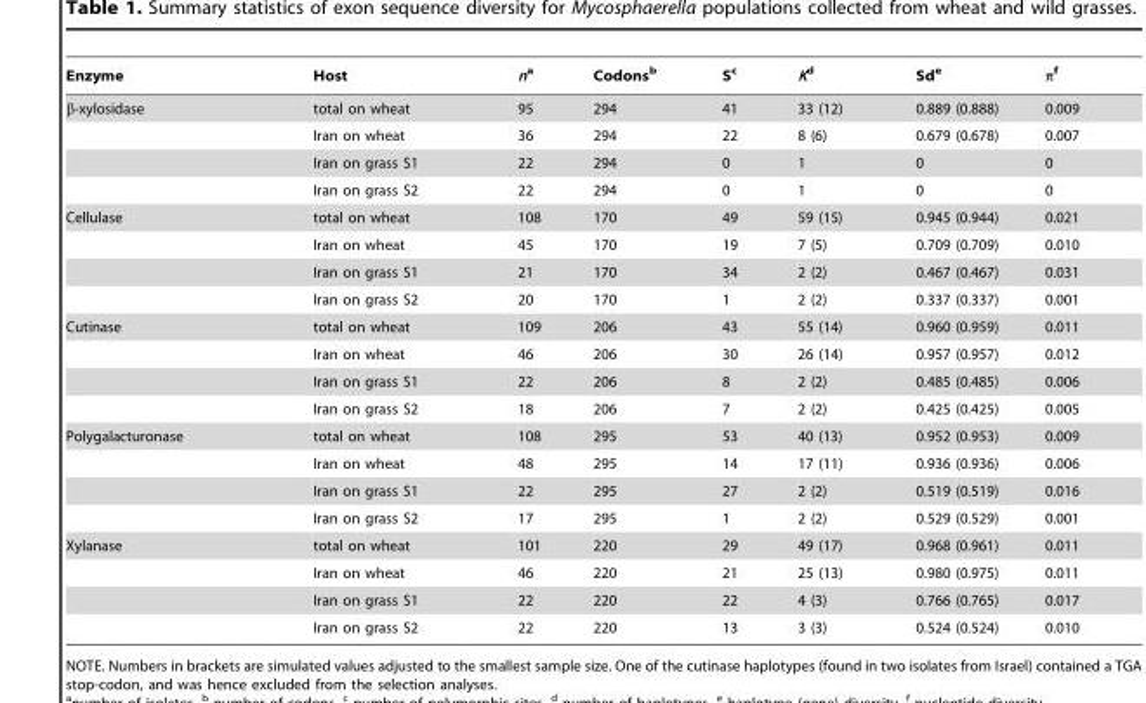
<table><thead><tr><td>Enzyme</td><td>Host</td><td>na</td><td>Codons<sup>b</sup></td><td>S<sup>c</sup></td><td>K<sup>d</sup></td><td>Sd<sup>e</sup></td><td>π<sup>f</sup></td></tr></thead><tbody><tr><td rowspan="4">β-xylosidase</td><td>total on wheat</td><td>95</td><td>294</td><td>41</td><td>33 (12)</td><td>0.889 (0.888)</td><td>0.009</td></tr><tr><td>Iran on wheat</td><td>36</td><td>294</td><td>22</td><td>8 (6)</td><td>0.679 (0.678)</td><td>0.007</td></tr><tr><td>Iran on grass S1</td><td>22</td><td>294</td><td>0</td><td>1</td><td>0</td><td>0</td></tr><tr><td>Iran on grass S2</td><td>22</td><td>294</td><td>0</td><td>1</td><td>0</td><td>0</td></tr><tr><td rowspan="4">Cellulase</td><td>total on wheat</td><td>108</td><td>170</td><td>49</td><td>59 (15)</td><td>0.945 (0.944)</td><td>0.021</td></tr><tr><td>Iran on wheat</td><td>45</td><td>170</td><td>19</td><td>7 (5)</td><td>0.709 (0.709)</td><td>0.010</td></tr><tr><td>Iran on grass S1</td><td>21</td><td>170</td><td>34</td><td>2 (2)</td><td>0.467 (0.467)</td><td>0.031</td></tr><tr><td>Iran on grass S2</td><td>20</td><td>170</td><td>1</td><td>2 (2)</td><td>0.337 (0.337)</td><td>0.001</td></tr><tr><td rowspan="4">Cutinase</td><td>total on wheat</td><td>109</td><td>206</td><td>43</td><td>55 (14)</td><td>0.960 (0.959)</td><td>0.011</td></tr><tr><td>Iran on wheat</td><td>46</td><td>206</td><td>30</td><td>26 (14)</td><td>0.957 (0.957)</td><td>0.012</td></tr><tr><td>Iran on grass S1</td><td>22</td><td>206</td><td>8</td><td>2 (2)</td><td>0.485 (0.485)</td><td>0.006</td></tr><tr><td>Iran on grass S2</td><td>18</td><td>206</td><td>7</td><td>2 (2)</td><td>0.425 (0.425)</td><td>0.005</td></tr><tr><td rowspan="4">Polygalacturonase</td><td>total on wheat</td><td>108</td><td>295</td><td>53</td><td>40 (13)</td><td>0.952 (0.953)</td><td>0.009</td></tr><tr><td>Iran on wheat</td><td>48</td><td>295</td><td>14</td><td>17 (11)</td><td>0.936 (0.936)</td><td>0.006</td></tr><tr><td>Iran on grass S1</td><td>22</td><td>295</td><td>27</td><td>2 (2)</td><td>0.519 (0.519)</td><td>0.016</td></tr><tr><td>Iran on grass S2</td><td>17</td><td>295</td><td>1</td><td>2 (2)</td><td>0.529 (0.529)</td><td>0.001</td></tr><tr><td rowspan="4">Xylanase</td><td>total on wheat</td><td>101</td><td>220</td><td>29</td><td>49 (17)</td><td>0.968 (0.961)</td><td>0.011</td></tr><tr><td>Iran on wheat</td><td>46</td><td>220</td><td>21</td><td>25 (13)</td><td>0.980 (0.975)</td><td>0.011</td></tr><tr><td>Iran on grass S1</td><td>22</td><td>220</td><td>22</td><td>4 (3)</td><td>0.766 (0.765)</td><td>0.017</td></tr><tr><td>Iran on grass S2</td><td>22</td><td>220</td><td>13</td><td>3 (3)</td><td>0.524 (0.524)</td><td>0.010</td></tr></tbody></table>